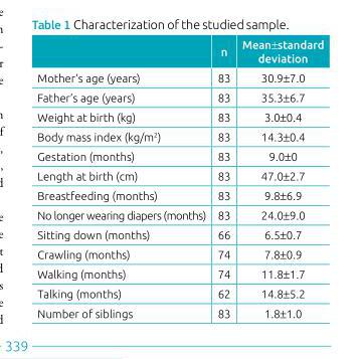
<table><thead><tr><td></td><td>n</td><td>Mean±standard deviation</td></tr></thead><tbody><tr><td>Mother’s age (years)</td><td>83</td><td>30.9±7.0</td></tr><tr><td>Father’s age (years)</td><td>83</td><td>35.3±6.7</td></tr><tr><td>Weight at birth (kg)</td><td>83</td><td>3.0±0.4</td></tr><tr><td>Body mass index (kg/m<sup>2</sup>)</td><td>83</td><td>14.3±0.4</td></tr><tr><td>Gestation (months)</td><td>83</td><td>9.0±0</td></tr><tr><td>Length at birth (cm)</td><td>83</td><td>47.0±2.7</td></tr><tr><td>Breastfeeding (months)</td><td>83</td><td>9.8±6.9</td></tr><tr><td>No longer wearing diapers (months)</td><td>83</td><td>24.0±9.0</td></tr><tr><td>Sitting down (months)</td><td>66</td><td>6.5±0.7</td></tr><tr><td>Crawling (months)</td><td>74</td><td>7.8±0.9</td></tr><tr><td>Walking (months)</td><td>74</td><td>11.8±1.7</td></tr><tr><td>Talking (months)</td><td>62</td><td>14.8±5.2</td></tr><tr><td>Number of siblings</td><td>83</td><td>1.8±1.0</td></tr></tbody></table>